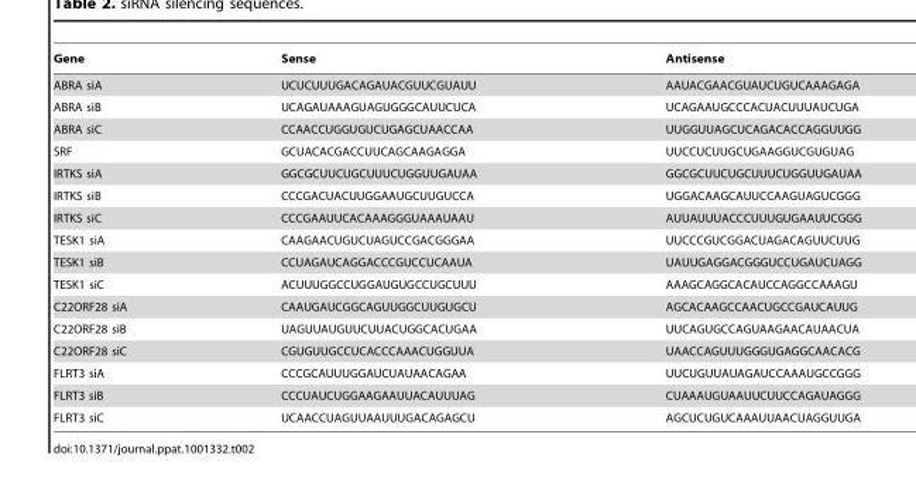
<table><thead><tr><td>Gene</td><td>Sense</td><td>Antisense</td></tr></thead><tbody><tr><td>ABRA siA</td><td>UCUCUUUGACAGAUACGUUCGUAUU</td><td>AAUACGAACGUAUCUGUCAAAGAGA</td></tr><tr><td>ABRA siB</td><td>UCAGAUAAAGUAGUGGGCAUUCUCA</td><td>UCAGAAUGCCCACUACUUUAUCUGA</td></tr><tr><td>ABRA siC</td><td>CCAACCUGGUGUCUGAGCUAACCAA</td><td>UUGGUUAGCUCAGACACCAGGUUGG</td></tr><tr><td>SRF</td><td>GCUACACGACCUUCAGCAAGAGGA</td><td>UUCCUCUUGCUGAAGGUCGUGUAG</td></tr><tr><td>IRTKS siA</td><td>GGCGCUUCUGCUUUCUGGUUGAUAA</td><td>GGCGCUUCUGCUUUCUGGUUGAUAA</td></tr><tr><td>IRTKS siB</td><td>CCCGACUACUUGGAAUGCUUGUCCA</td><td>UGGACAAGCAUUCCAAGUAGUCGGG</td></tr><tr><td>IRTKS siC</td><td>CCCGAAUUCACAAAGGGUAAAUAAU</td><td>AUUAUUUACCCUUUGUGAAUUCGGG</td></tr><tr><td>TESK1 siA</td><td>CAAGAACUGUCUAGUCCGACGGGAA</td><td>UUCCCGUCGGACUAGACAGUUCUUG</td></tr><tr><td>TESK1 siB</td><td>CCUAGAUCAGGACCCGUCCUCAAUA</td><td>UAUUGAGGACGGGUCCUGAUCUAGG</td></tr><tr><td>TESK1 siC</td><td>ACUUUGGCCUGGAUGUGCCUGCUUU</td><td>AAAGCAGGCACAUCCAGGCCAAAGU</td></tr><tr><td>C22ORF28 siA</td><td>CAAUGAUCGGCAGUUGGCUUGUGCU</td><td>AGCACAAGCCAACUGCCGAUCAUUG</td></tr><tr><td>C22ORF28 siB</td><td>UAGUUAUGUUCUUACUGGCACUGAA</td><td>UUCAGUGCCAGUAAGAACAUAACUA</td></tr><tr><td>C22ORF28 siC</td><td>CGUGUUGCCUCACCCAAACUGGUUA</td><td>UAACCAGUUUGGGUGAGGCAACACG</td></tr><tr><td>FLRT3 siA</td><td>CCCGCAUUUGGAUCUAUAACAGAA</td><td>UUCUGUUAUAGAUCCAAAUGCCGGG</td></tr><tr><td>FLRT3 siB</td><td>CCCUAUCUGGAAGAAUUACAUUUAG</td><td>CUAAAUGUAAUUCUUCCAGAUAGGG</td></tr><tr><td>FLRT3 siC</td><td>UCAACCUAGUUAAUUUGACAGAGCU</td><td>AGCUCUGUCAAAUUAACUAGGUUGA</td></tr></tbody></table>